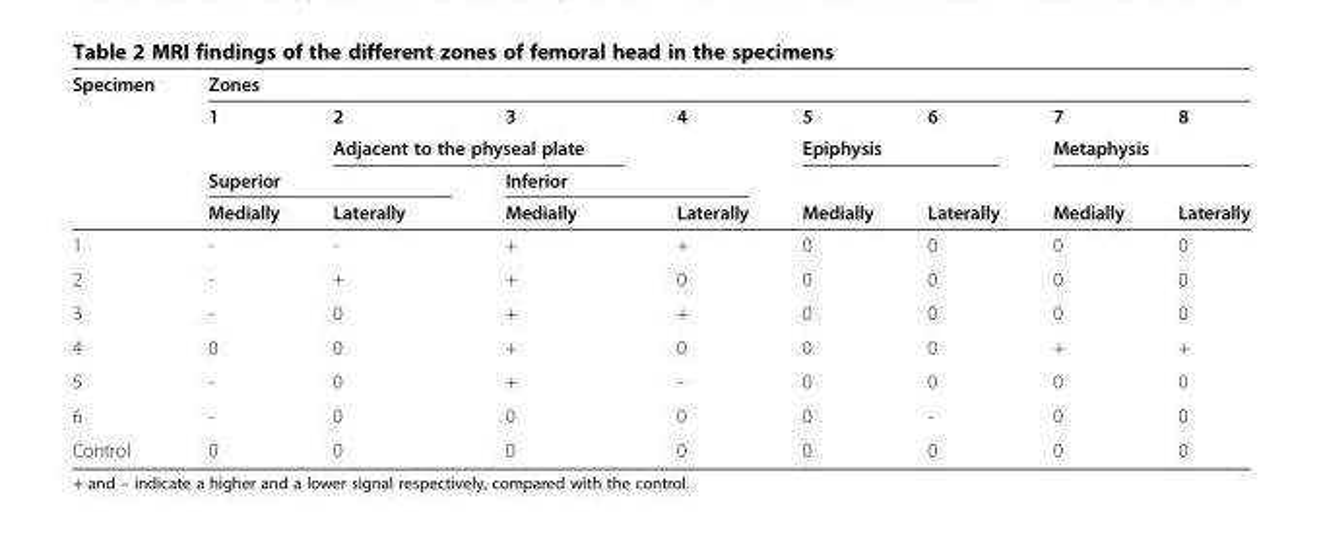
<table><thead><tr><td rowspan="5">Specimen</td><td colspan="8">Zones</td></tr><tr><td rowspan="2">1</td><td>2</td><td>3</td><td rowspan="2">4</td><td>5</td><td>6</td><td>7</td><td>8</td></tr><tr><td colspan="2">Adjacent to the physeal plate</td><td colspan="2">Epiphysis</td><td colspan="2">Metaphysis</td></tr><tr><td colspan="2">Superior</td><td colspan="2">Inferior</td><td rowspan="2">Medially</td><td rowspan="2">Laterally</td><td rowspan="2">Medially</td><td rowspan="2">Laterally</td></tr><tr><td>Medially</td><td>Laterally</td><td>Medially</td><td>Laterally</td></tr></thead><tbody><tr><td>1</td><td>-</td><td>-</td><td>+</td><td>+</td><td>0</td><td>0</td><td>0</td><td>0</td></tr><tr><td>2</td><td>-</td><td>+</td><td>+</td><td>0</td><td>0</td><td>0</td><td>0</td><td>0</td></tr><tr><td>3</td><td>-</td><td>0</td><td>+</td><td>+</td><td>0</td><td>0</td><td>0</td><td>0</td></tr><tr><td>4</td><td>0</td><td>0</td><td>+</td><td>0</td><td>0</td><td>0</td><td>+</td><td>+</td></tr><tr><td>5</td><td>-</td><td>0</td><td>+</td><td>-</td><td>0</td><td>0</td><td>0</td><td>0</td></tr><tr><td>6</td><td>-</td><td>0</td><td>0</td><td>0</td><td>0</td><td>-</td><td>0</td><td>0</td></tr><tr><td>Control</td><td>0</td><td>0</td><td>0</td><td>0</td><td>0</td><td>0</td><td>0</td><td>0</td></tr></tbody></table>